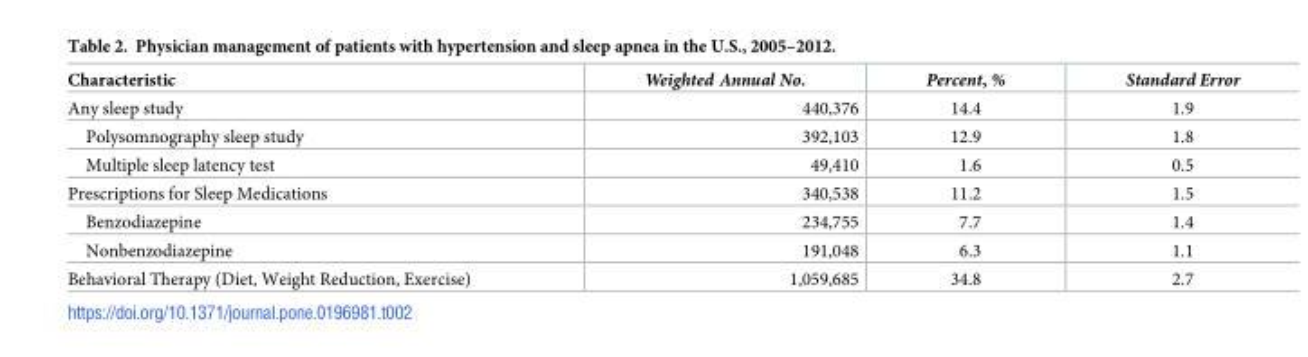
<table><thead><tr><td>Characteristic</td><td>Weighted Annual No.</td><td>Percent, %</td><td>Standard Error</td></tr></thead><tbody><tr><td>Any sleep study</td><td>440,376</td><td>14.4</td><td>1.9</td></tr><tr><td>Polysomnography sleep study</td><td>392,103</td><td>12.9</td><td>1.8</td></tr><tr><td>Multiple sleep latency test</td><td>49,410</td><td>1.6</td><td>0.5</td></tr><tr><td>Prescriptions for Sleep Medications</td><td>340,538</td><td>11.2</td><td>1.5</td></tr><tr><td>Benzodiazepine</td><td>234,755</td><td>7.7</td><td>1.4</td></tr><tr><td>Nonbenzodiazepine</td><td>191,048</td><td>6.3</td><td>1.1</td></tr><tr><td>Behavioral Therapy (Diet, Weight Reduction, Exercise)</td><td>1,059,685</td><td>34.8</td><td>2.7</td></tr></tbody></table>